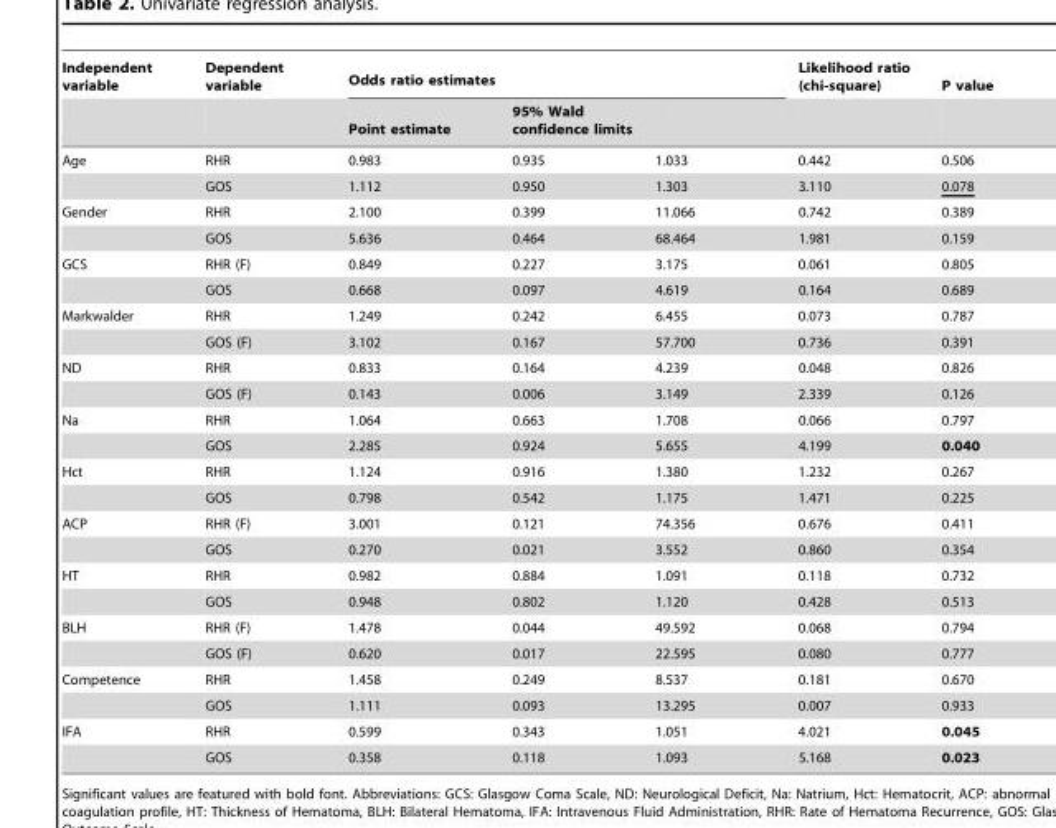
<table><thead><tr><td rowspan="2">Independent variable</td><td rowspan="2">Dependent variable</td><td colspan="3">Odds ratio estimates</td><td rowspan="2">Likelihood ratio (chi-square)</td><td rowspan="2">P value</td></tr><tr><td>Point estimate</td><td>95% Wald confidence limits</td><td></td></tr></thead><tbody><tr><td rowspan="2">Age</td><td>RHR</td><td>0.983</td><td>0.935</td><td>1.033</td><td>0.442</td><td>0.506</td></tr><tr><td>GOS</td><td>1.112</td><td>0.950</td><td>1.303</td><td>3.110</td><td>0.078</td></tr><tr><td rowspan="2">Gender</td><td>RHR</td><td>2.100</td><td>0.399</td><td>11.066</td><td>0.742</td><td>0.389</td></tr><tr><td>GOS</td><td>5.636</td><td>0.464</td><td>68.464</td><td>1.981</td><td>0.159</td></tr><tr><td rowspan="2">GCS</td><td>RHR (F)</td><td>0.849</td><td>0.227</td><td>3.175</td><td>0.061</td><td>0.805</td></tr><tr><td>GOS</td><td>0.668</td><td>0.097</td><td>4.619</td><td>0.164</td><td>0.689</td></tr><tr><td rowspan="2">Markwalder</td><td>RHR</td><td>1.249</td><td>0.242</td><td>6.455</td><td>0.073</td><td>0.787</td></tr><tr><td>GOS (F)</td><td>3.102</td><td>0.167</td><td>57.700</td><td>0.736</td><td>0.391</td></tr><tr><td rowspan="2">ND</td><td>RHR</td><td>0.833</td><td>0.164</td><td>4.239</td><td>0.048</td><td>0.826</td></tr><tr><td>GOS (F)</td><td>0.143</td><td>0.006</td><td>3.149</td><td>2.339</td><td>0.126</td></tr><tr><td rowspan="2">Na</td><td>RHR</td><td>1.064</td><td>0.663</td><td>1.708</td><td>0.066</td><td>0.797</td></tr><tr><td>GOS</td><td>2.285</td><td>0.924</td><td>5.655</td><td>4.199</td><td>0.040</td></tr><tr><td rowspan="2">Hct</td><td>RHR</td><td>1.124</td><td>0.916</td><td>1.380</td><td>1.232</td><td>0.267</td></tr><tr><td>GOS</td><td>0.798</td><td>0.542</td><td>1.175</td><td>1.471</td><td>0.225</td></tr><tr><td rowspan="2">ACP</td><td>RHR (F)</td><td>3.001</td><td>0.121</td><td>74.356</td><td>0.676</td><td>0.411</td></tr><tr><td>GOS</td><td>0.270</td><td>0.021</td><td>3.552</td><td>0.860</td><td>0.354</td></tr><tr><td rowspan="2">HT</td><td>RHR</td><td>0.982</td><td>0.884</td><td>1.091</td><td>0.118</td><td>0.732</td></tr><tr><td>GOS</td><td>0.948</td><td>0.802</td><td>1.120</td><td>0.428</td><td>0.513</td></tr><tr><td rowspan="2">BLH</td><td>RHR (F)</td><td>1.478</td><td>0.044</td><td>49.592</td><td>0.068</td><td>0.794</td></tr><tr><td>GOS (F)</td><td>0.620</td><td>0.017</td><td>22.595</td><td>0.080</td><td>0.777</td></tr><tr><td rowspan="2">Competence</td><td>RHR</td><td>1.458</td><td>0.249</td><td>8.537</td><td>0.181</td><td>0.670</td></tr><tr><td>GOS</td><td>1.111</td><td>0.093</td><td>13.295</td><td>0.007</td><td>0.933</td></tr><tr><td rowspan="2">IFA</td><td>RHR</td><td>0.599</td><td>0.343</td><td>1.051</td><td>4.021</td><td>0.045</td></tr><tr><td>GOS</td><td>0.358</td><td>0.118</td><td>1.093</td><td>5.168</td><td>0.023</td></tr></tbody></table>